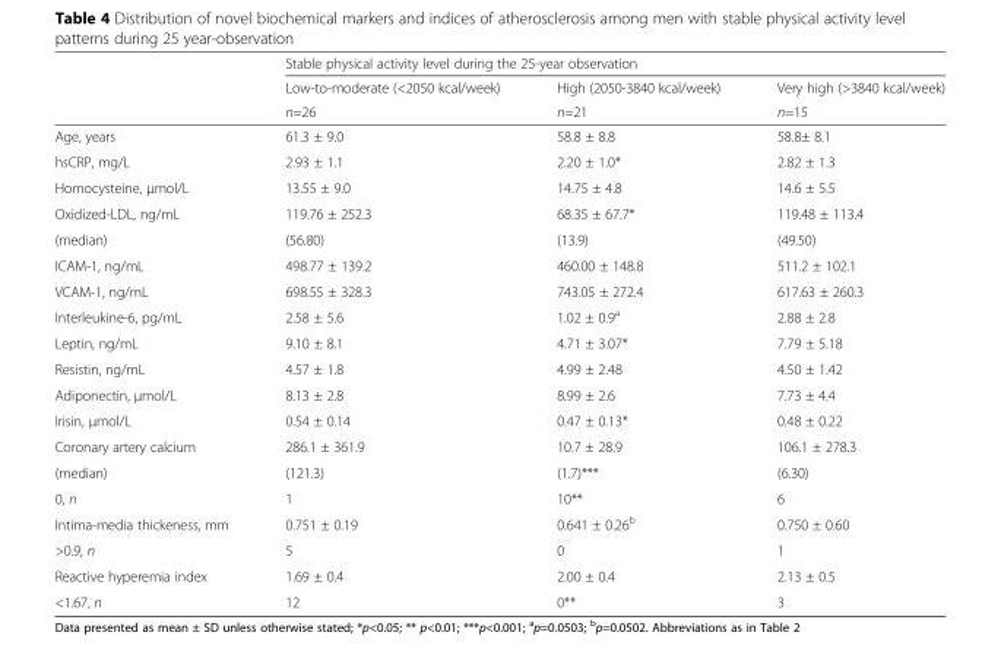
<table><thead><tr><td rowspan="3"></td><td colspan="3">Stable physical activity level during the 25-year observation</td></tr><tr><td rowspan="2">Low-to-moderate (&lt;2050 kcal/week) n=26</td><td rowspan="2">High (2050-3840 kcal/week) n=21</td><td rowspan="2">Very high (&gt;3840 kcal/week) n=15</td></tr><tr></tr></thead><tbody><tr><td>Age, years</td><td>61.3 ± 9.0</td><td>58.8 ± 8.8</td><td>58.8± 8.1</td></tr><tr><td>hsCRP, mg/L</td><td>2.93 ± 1.1</td><td>2.20 ± 1.0*</td><td>2.82 ± 1.3</td></tr><tr><td>Homocysteine, μmol/L</td><td>13.55 ± 9.0</td><td>14.75 ± 4.8</td><td>14.6 ± 5.5</td></tr><tr><td>Oxidized-LDL, ng/mL</td><td>119.76 ± 252.3</td><td>68.35 ± 67.7*</td><td>119.48 ± 113.4</td></tr><tr><td>(median)</td><td>(56.80)</td><td>(13.9)</td><td>(49.50)</td></tr><tr><td>ICAM-1, ng/mL</td><td>498.77 ± 139.2</td><td>460.00 ± 148.8</td><td>511.2 ± 102.1</td></tr><tr><td>VCAM-1, ng/mL</td><td>698.55 ± 328.3</td><td>743.05 ± 272.4</td><td>617.63 ± 260.3</td></tr><tr><td>Interleukine-6, pg/mL</td><td>2.58 ± 5.6</td><td>1.02 ± 0.9<sup>a</sup></td><td>2.88 ± 2.8</td></tr><tr><td>Leptin, ng/mL</td><td>9.10 ± 8.1</td><td>4.71 ± 3.07*</td><td>7.79 ± 5.18</td></tr><tr><td>Resistin, ng/mL</td><td>4.57 ± 1.8</td><td>4.99 ± 2.48</td><td>4.50 ± 1.42</td></tr><tr><td>Adiponectin, μmol/L</td><td>8.13 ± 2.8</td><td>8.99 ± 2.6</td><td>7.73 ± 4.4</td></tr><tr><td>Irisin, μmol/L</td><td>0.54 ± 0.14</td><td>0.47 ± 0.13*</td><td>0.48 ± 0.22</td></tr><tr><td>Coronary artery calcium</td><td>286.1 ± 361.9</td><td>10.7 ± 28.9</td><td>106.1 ± 278.3</td></tr><tr><td>(median)</td><td>(121.3)</td><td>(1.7)***</td><td>(6.30)</td></tr><tr><td>0, n</td><td>1</td><td>10**</td><td>6</td></tr><tr><td>Intima-media thickeness, mm</td><td>0.751 ± 0.19</td><td>0.641 ± 0.26<sup>b</sup></td><td>0.750 ± 0.60</td></tr><tr><td>&gt;0.9, n</td><td>5</td><td>0</td><td>1</td></tr><tr><td>Reactive hyperemia index</td><td>1.69 ± 0.4</td><td>2.00 ± 0.4</td><td>2.13 ± 0.5</td></tr><tr><td>&lt;1.67, n</td><td>12</td><td>0**</td><td>3</td></tr></tbody></table>